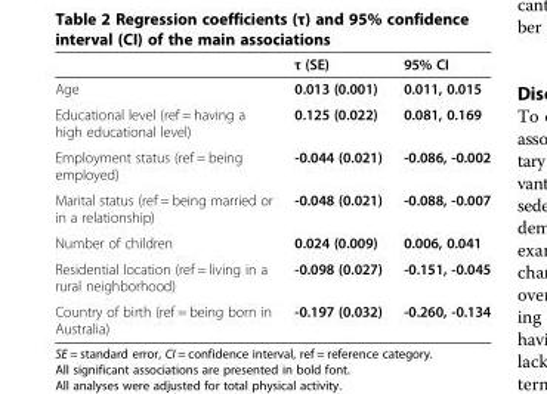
<table><thead><tr><td></td><td>τ (SE)</td><td>95% CI</td></tr></thead><tbody><tr><td>Age</td><td>0.013 (0.001)</td><td>0.011, 0.015</td></tr><tr><td>Educational level (ref = having a high educational level)</td><td>0.125 (0.022)</td><td>0.081, 0.169</td></tr><tr><td>Employment status (ref = being employed)</td><td>-0.044 (0.021)</td><td>-0.086, -0.002</td></tr><tr><td>Marital status (ref = being married or in a relationship)</td><td>-0.048 (0.021)</td><td>-0.088, -0.007</td></tr><tr><td>Number of children</td><td>0.024 (0.009)</td><td>0.006, 0.041</td></tr><tr><td>Residential location (ref = living in a rural neighborhood)</td><td>-0.098 (0.027)</td><td>-0.151, -0.045</td></tr><tr><td>Country of birth (ref = being born in Australia)</td><td>-0.197 (0.032)</td><td>-0.260, -0.134</td></tr></tbody></table>